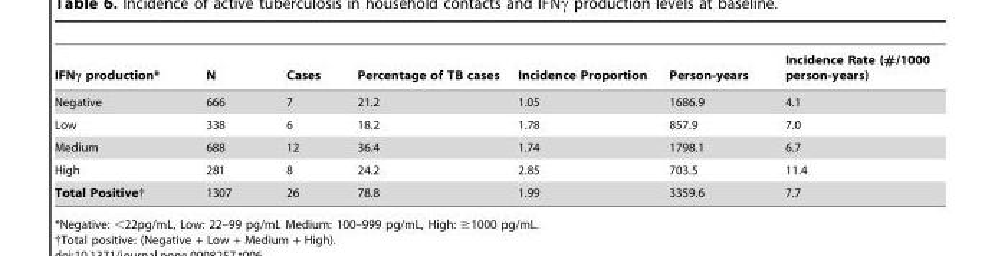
<table><thead><tr><td>IFNγ production*</td><td>N</td><td>Cases</td><td>Percentage of TB cases</td><td>Incidence Proportion</td><td>Person-years</td><td>Incidence Rate (#/1000 person-years)</td></tr></thead><tbody><tr><td>Negative</td><td>666</td><td>7</td><td>21.2</td><td>1.05</td><td>1686.9</td><td>4.1</td></tr><tr><td>Low</td><td>338</td><td>6</td><td>18.2</td><td>1.78</td><td>857.9</td><td>7.0</td></tr><tr><td>Medium</td><td>688</td><td>12</td><td>36.4</td><td>1.74</td><td>1798.1</td><td>6.7</td></tr><tr><td>High</td><td>281</td><td>8</td><td>24.2</td><td>2.85</td><td>703.5</td><td>11.4</td></tr><tr><td>Total Positive†</td><td>1307</td><td>26</td><td>78.8</td><td>1.99</td><td>3359.6</td><td>7.7</td></tr></tbody></table>